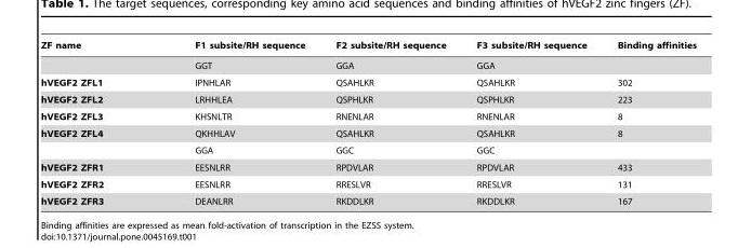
<table><thead><tr><td>ZF name</td><td>F1 subsite/RH sequence</td><td>F2 subsite/RH sequence</td><td>F3 subsite/RH sequence</td><td>Binding affinities</td></tr></thead><tbody><tr><td></td><td>GGT</td><td>GGA</td><td>GGA</td><td></td></tr><tr><td>hVEGF2 ZFL1</td><td>IPNHLAR</td><td>QSAHLKR</td><td>QSAHLKR</td><td>302</td></tr><tr><td>hVEGF2 ZFL2</td><td>LRHHLEA</td><td>QSPHLKR</td><td>QSPHLKR</td><td>223</td></tr><tr><td>hVEGF2 ZFL3</td><td>KHSNLTR</td><td>RNENLAR</td><td>RNENLAR</td><td>8</td></tr><tr><td rowspan="2">hVEGF2 ZFL4</td><td>QKHHLAV</td><td>QSAHLKR</td><td>QSAHLKR</td><td>8</td></tr><tr><td>GGA</td><td>GGC</td><td>GGC</td><td></td></tr><tr><td>hVEGF2 ZFR1</td><td>EESNLRR</td><td>RPDVLAR</td><td>RPDVLAR</td><td>433</td></tr><tr><td>hVEGF2 ZFR2</td><td>EESNLRR</td><td>RRESLVR</td><td>RRESLVR</td><td>131</td></tr><tr><td>hVEGF2 ZFR3</td><td>DEANLRR</td><td>RKDDLKR</td><td>RKDDLKR</td><td>167</td></tr></tbody></table>